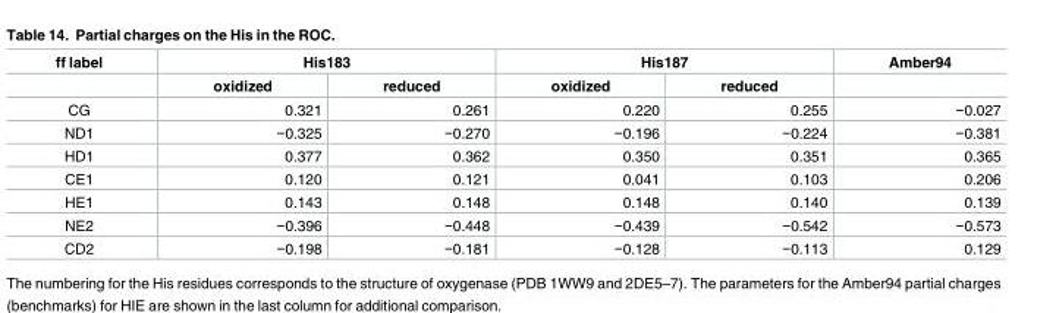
<table><thead><tr><td rowspan="2">ff label</td><td colspan="2">His183</td><td colspan="2">His187</td><td rowspan="2">Amber94</td></tr><tr><td>oxidized</td><td>reduced</td><td>oxidized</td><td>reduced</td></tr></thead><tbody><tr><td>CG</td><td>0.321</td><td>0.261</td><td>0.220</td><td>0.255</td><td>−0.027</td></tr><tr><td>ND1</td><td>−0.325</td><td>−0.270</td><td>−0.196</td><td>−0.224</td><td>−0.381</td></tr><tr><td>HD1</td><td>0.377</td><td>0.362</td><td>0.350</td><td>0.351</td><td>0.365</td></tr><tr><td>CE1</td><td>0.120</td><td>0.121</td><td>0.041</td><td>0.103</td><td>0.206</td></tr><tr><td>HE1</td><td>0.143</td><td>0.148</td><td>0.148</td><td>0.140</td><td>0.139</td></tr><tr><td>NE2</td><td>−0.396</td><td>−0.448</td><td>−0.439</td><td>−0.542</td><td>−0.573</td></tr><tr><td>CD2</td><td>−0.198</td><td>−0.181</td><td>−0.128</td><td>−0.113</td><td>0.129</td></tr></tbody></table>